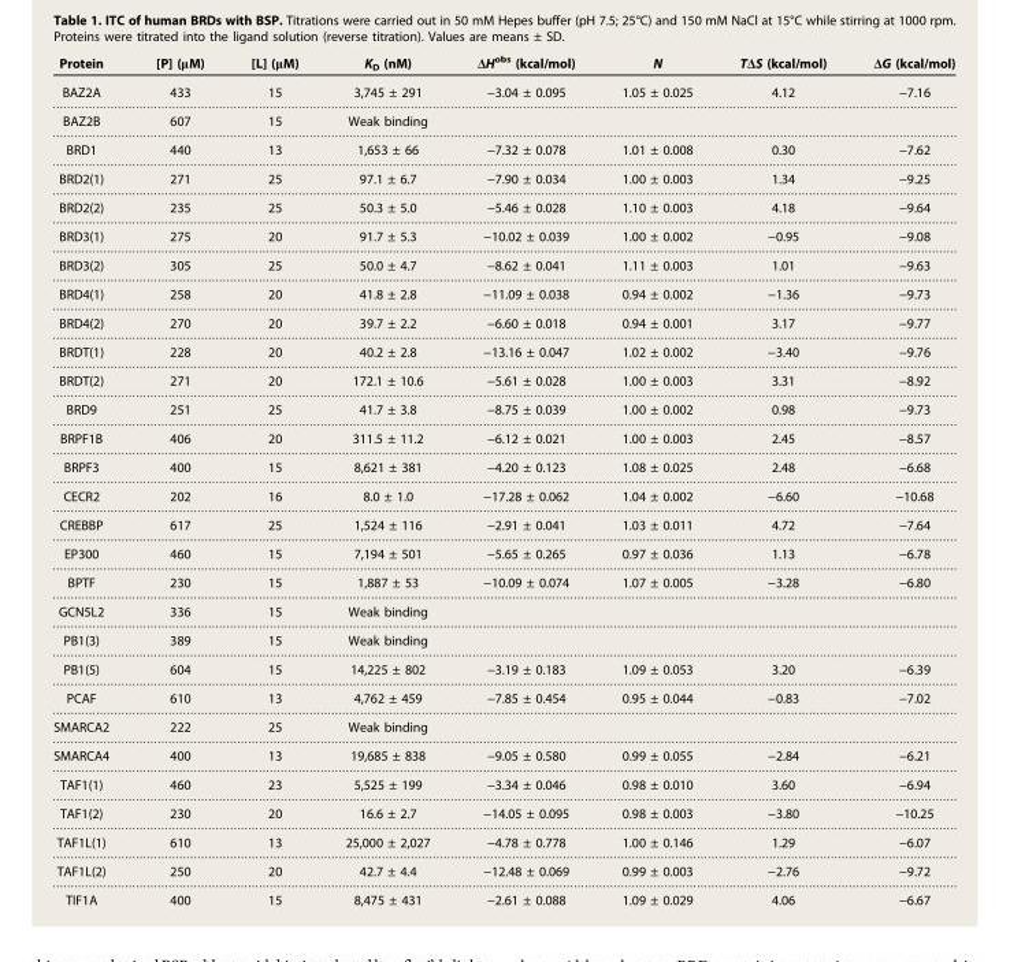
<table><thead><tr><td>Protein</td><td>[P] (μM)</td><td>[L] (μM)</td><td>K<sub>D</sub> (nM)</td><td>ΔH<sup>obs</sup> (kcal/mol)</td><td>N</td><td>TΔS (kcal/mol)</td><td>ΔG (kcal/mol)</td></tr></thead><tbody><tr><td>BAZ2A</td><td>433</td><td>15</td><td>3,745 ± 291</td><td>−3.04 ± 0.095</td><td>1.05 ± 0.025</td><td>4.12</td><td>−7.16</td></tr><tr><td>BAZ2B</td><td>607</td><td>15</td><td>Weak binding</td><td></td><td></td><td></td><td></td></tr><tr><td>BRD1</td><td>440</td><td>13</td><td>1,653 ± 66</td><td>−7.32 ± 0.078</td><td>1.01 ± 0.008</td><td>0.30</td><td>−7.62</td></tr><tr><td>BRD2(1)</td><td>271</td><td>25</td><td>97.1 ± 6.7</td><td>−7.90 ± 0.034</td><td>1.00 ± 0.003</td><td>1.34</td><td>−9.25</td></tr><tr><td>BRD2(2)</td><td>235</td><td>25</td><td>50.3 ± 5.0</td><td>−5.46 ± 0.028</td><td>1.10 ± 0.003</td><td>4.18</td><td>−9.64</td></tr><tr><td>BRD3(1)</td><td>275</td><td>20</td><td>91.7 ± 5.3</td><td>−10.02 ± 0.039</td><td>1.00 ± 0.002</td><td>−0.95</td><td>−9.08</td></tr><tr><td>BRD3(2)</td><td>305</td><td>25</td><td>50.0 ± 4.7</td><td>−8.62 ± 0.041</td><td>1.11 ± 0.003</td><td>1.01</td><td>−9.63</td></tr><tr><td>BRD4(1)</td><td>258</td><td>20</td><td>41.8 ± 2.8</td><td>−11.09 ± 0.038</td><td>0.94 ± 0.002</td><td>−1.36</td><td>−9.73</td></tr><tr><td>BRD4(2)</td><td>270</td><td>20</td><td>39.7 ± 2.2</td><td>−6.60 ± 0.018</td><td>0.94 ± 0.001</td><td>3.17</td><td>−9.77</td></tr><tr><td>BRDT(1)</td><td>228</td><td>20</td><td>40.2 ± 2.8</td><td>−13.16 ± 0.047</td><td>1.02 ± 0.002</td><td>−3.40</td><td>−9.76</td></tr><tr><td>BRDT(2)</td><td>271</td><td>20</td><td>172.1 ± 10.6</td><td>−5.61 ± 0.028</td><td>1.00 ± 0.003</td><td>3.31</td><td>−8.92</td></tr><tr><td>BRD9</td><td>251</td><td>25</td><td>41.7 ± 3.8</td><td>−8.75 ± 0.039</td><td>1.00 ± 0.002</td><td>0.98</td><td>−9.73</td></tr><tr><td>BRPF1B</td><td>406</td><td>20</td><td>311.5 ± 11.2</td><td>−6.12 ± 0.021</td><td>1.00 ± 0.003</td><td>2.45</td><td>−8.57</td></tr><tr><td>BRPF3</td><td>400</td><td>15</td><td>8,621 ± 381</td><td>−4.20 ± 0.123</td><td>1.08 ± 0.025</td><td>2.48</td><td>−6.68</td></tr><tr><td>CECR2</td><td>202</td><td>16</td><td>8.0 ± 1.0</td><td>−17.28 ± 0.062</td><td>1.04 ± 0.002</td><td>−6.60</td><td>−10.68</td></tr><tr><td>CREBBP</td><td>617</td><td>25</td><td>1,524 ± 116</td><td>−2.91 ± 0.041</td><td>1.03 ± 0.011</td><td>4.72</td><td>−7.64</td></tr><tr><td>EP300</td><td>460</td><td>15</td><td>7,194 ± 501</td><td>−5.65 ± 0.265</td><td>0.97 ± 0.036</td><td>1.13</td><td>−6.78</td></tr><tr><td>BPTF</td><td>230</td><td>15</td><td>1,887 ± 53</td><td>−10.09 ± 0.074</td><td>1.07 ± 0.005</td><td>−3.28</td><td>−6.80</td></tr><tr><td>GCN5L2</td><td>336</td><td>15</td><td>Weak binding</td><td></td><td></td><td></td><td></td></tr><tr><td>PB1(3)</td><td>389</td><td>15</td><td>Weak binding</td><td></td><td></td><td></td><td></td></tr><tr><td>PB1(5)</td><td>604</td><td>15</td><td>14,225 ± 802</td><td>−3.19 ± 0.183</td><td>1.09 ± 0.053</td><td>3.20</td><td>−6.39</td></tr><tr><td>PCAF</td><td>610</td><td>13</td><td>4,762 ± 459</td><td>−7.85 ± 0.454</td><td>0.95 ± 0.044</td><td>−0.83</td><td>−7.02</td></tr><tr><td>SMARCA2</td><td>222</td><td>25</td><td>Weak binding</td><td></td><td></td><td></td><td></td></tr><tr><td>SMARCA4</td><td>400</td><td>13</td><td>19,685 ± 838</td><td>−9.05 ± 0.580</td><td>0.99 ± 0.055</td><td>−2.84</td><td>−6.21</td></tr><tr><td>TAF1(1)</td><td>460</td><td>23</td><td>5,525 ± 199</td><td>−3.34 ± 0.046</td><td>0.98 ± 0.010</td><td>3.60</td><td>−6.94</td></tr><tr><td>TAF1(2)</td><td>230</td><td>20</td><td>16.6 ± 2.7</td><td>−14.05 ± 0.095</td><td>0.98 ± 0.003</td><td>−3.80</td><td>−10.25</td></tr><tr><td>TAF1L(1)</td><td>610</td><td>13</td><td>25,000 ± 2,027</td><td>−4.78 ± 0.778</td><td>1.00 ± 0.146</td><td>1.29</td><td>−6.07</td></tr><tr><td>TAF1L(2)</td><td>250</td><td>20</td><td>42.7 ± 4.4</td><td>−12.48 ± 0.069</td><td>0.99 ± 0.003</td><td>−2.76</td><td>−9.72</td></tr><tr><td>TIF1A</td><td>400</td><td>15</td><td>8,475 ± 431</td><td>−2.61 ± 0.088</td><td>1.09 ± 0.029</td><td>4.06</td><td>−6.67</td></tr></tbody></table>